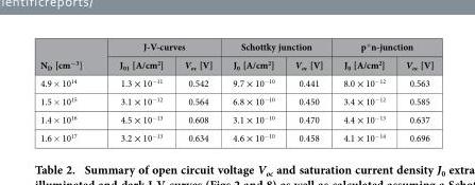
<table><thead><tr><td rowspan="2">N<sub>D</sub> [cm<sup>−3</sup>]</td><td colspan="2">J-V-curves</td><td colspan="2">Schottky junction</td><td colspan="2">p<sup>+</sup>n-junction</td></tr><tr><td>J<sub>01</sub> [A/cm<sup>2</sup>]</td><td>V<sub>oc</sub> [V]</td><td>J<sub>0</sub> [A/cm<sup>2</sup>]</td><td>V<sub>oc</sub> [V]</td><td>J<sub>0</sub> [A/cm<sup>2</sup>]</td><td>V<sub>oc</sub> [V]</td></tr></thead><tbody><tr><td>4.9 × 10<sup>14</sup></td><td>1.3 × 10<sup>−11</sup></td><td>0.542</td><td>9.7 × 10<sup>−10</sup></td><td>0.441</td><td>8.0 × 10<sup>−12</sup></td><td>0.563</td></tr><tr><td>1.5 × 10<sup>15</sup></td><td>3.1 × 10<sup>−12</sup></td><td>0.564</td><td>6.8 × 10<sup>−10</sup></td><td>0.450</td><td>3.4 × 10<sup>−12</sup></td><td>0.585</td></tr><tr><td>1.4 × 10<sup>16</sup></td><td>4.5 × 10<sup>−13</sup></td><td>0.608</td><td>3.1 × 10<sup>−10</sup></td><td>0.470</td><td>4.4 × 10<sup>−13</sup></td><td>0.637</td></tr><tr><td>1.6 × 10<sup>17</sup></td><td>3.2 × 10<sup>−13</sup></td><td>0.634</td><td>4.6 × 10<sup>−10</sup></td><td>0.458</td><td>4.1 × 10<sup>−14</sup></td><td>0.696</td></tr></tbody></table>